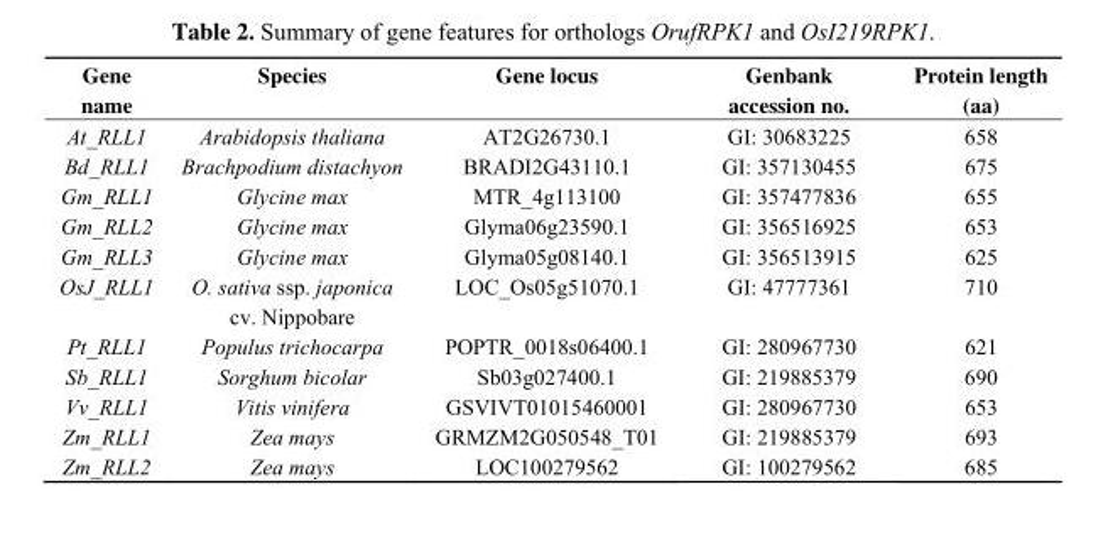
<table><thead><tr><td>Gene name</td><td>Species</td><td>Gene locus</td><td>Genbank accession no.</td><td>Protein length (aa)</td></tr></thead><tbody><tr><td>At_RLL1</td><td>Arabidopsis thaliana</td><td>AT2G26730.1</td><td>GI: 30683225</td><td>658</td></tr><tr><td>Bd_RLL1</td><td>Brachpodium distachyon</td><td>BRADI2G43110.1</td><td>GI: 357130455</td><td>675</td></tr><tr><td>Gm_RLL1</td><td>Glycine max</td><td>MTR_4g113100</td><td>GI: 357477836</td><td>655</td></tr><tr><td>Gm_RLL2</td><td>Glycine max</td><td>Glyma06g23590.1</td><td>GI: 356516925</td><td>653</td></tr><tr><td>Gm_RLL3</td><td>Glycine max</td><td>Glyma05g08140.1</td><td>GI: 356513915</td><td>625</td></tr><tr><td>OsJ_RLL1</td><td>O. sativa ssp. japonica cv. Nippobare</td><td>LOC_Os05g51070.1</td><td>GI: 47777361</td><td>710</td></tr><tr><td>Pt_RLL1</td><td>Populus trichocarpa</td><td>POPTR_0018s06400.1</td><td>GI: 280967730</td><td>621</td></tr><tr><td>Sb_RLL1</td><td>Sorghum bicolar</td><td>Sb03g027400.1</td><td>GI: 219885379</td><td>690</td></tr><tr><td>Vv_RLL1</td><td>Vitis vinifera</td><td>GSVIVT01015460001</td><td>GI: 280967730</td><td>653</td></tr><tr><td>Zm_RLL1</td><td>Zea mays</td><td>GRMZM2G050548_T01</td><td>GI: 219885379</td><td>693</td></tr><tr><td>Zm_RLL2</td><td>Zea mays</td><td>LOC100279562</td><td>GI: 100279562</td><td>685</td></tr></tbody></table>